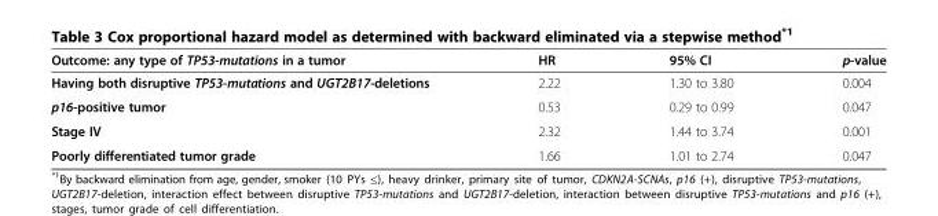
<table><thead><tr><td>Outcome: any type of TP53-mutations in a tumor</td><td>HR</td><td>95% CI</td><td>p-value</td></tr></thead><tbody><tr><td>Having both disruptive TP53-mutations and UGT2B17-deletions</td><td>2.22</td><td>1.30 to 3.80</td><td>0.004</td></tr><tr><td>p16-positive tumor</td><td>0.53</td><td>0.29 to 0.99</td><td>0.047</td></tr><tr><td>Stage IV</td><td>2.32</td><td>1.44 to 3.74</td><td>0.001</td></tr><tr><td>Poorly differentiated tumor grade</td><td>1.66</td><td>1.01 to 2.74</td><td>0.047</td></tr></tbody></table>